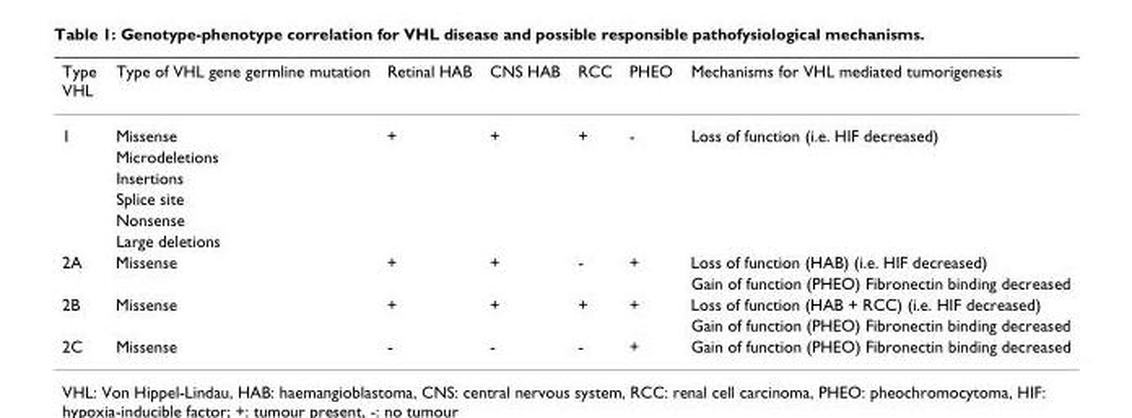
<table><thead><tr><td>Type VHL</td><td>Type of VHL gene germline mutation</td><td>Retinal HAB</td><td>CNS HAB</td><td>RCC</td><td>PHEO</td><td>Mechanisms for VHL mediated tumorigenesis</td></tr></thead><tbody><tr><td rowspan="6">1</td><td>Missense</td><td>+</td><td>+</td><td>+</td><td>-</td><td>Loss of function (i.e. HIF decreased)</td></tr><tr><td>Microdeletions</td><td></td><td></td><td></td><td></td><td></td></tr><tr><td>Insertions</td><td></td><td></td><td></td><td></td><td></td></tr><tr><td>Splice site</td><td></td><td></td><td></td><td></td><td></td></tr><tr><td>Nonsense</td><td></td><td></td><td></td><td></td><td></td></tr><tr><td>Large deletions</td><td></td><td></td><td></td><td></td><td></td></tr><tr><td rowspan="2">2A</td><td>Missense</td><td>+</td><td>+</td><td>-</td><td>+</td><td>Loss of function (HAB) (i.e. HIF decreased)</td></tr><tr><td></td><td></td><td></td><td></td><td></td><td>Gain of function (PHEO) Fibronectin binding decreased</td></tr><tr><td rowspan="2">2B</td><td>Missense</td><td>+</td><td>+</td><td>+</td><td>+</td><td>Loss of function (HAB + RCC) (i.e. HIF decreased)</td></tr><tr><td></td><td></td><td></td><td></td><td></td><td>Gain of function (PHEO) Fibronectin binding decreased</td></tr><tr><td>2C</td><td>Missense</td><td>-</td><td>-</td><td>-</td><td>+</td><td>Gain of function (PHEO) Fibronectin binding decreased</td></tr></tbody></table>